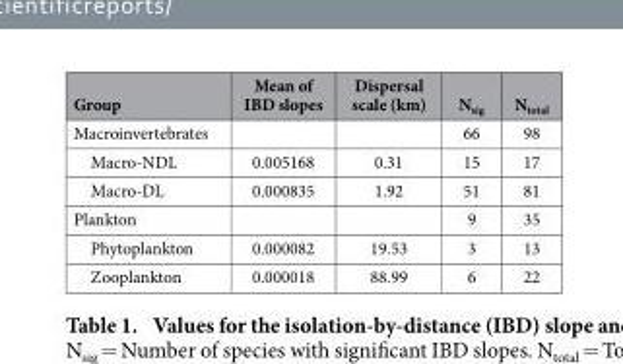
<table><thead><tr><td>Group</td><td>Mean of IBD slopes</td><td>Dispersal scale (km)</td><td>N<sub>sig</sub></td><td>N<sub>total</sub></td></tr></thead><tbody><tr><td>Macroinvertebrates</td><td></td><td></td><td>66</td><td>98</td></tr><tr><td>Macro-NDL</td><td>0.005168</td><td>0.31</td><td>15</td><td>17</td></tr><tr><td>Macro-DL</td><td>0.000835</td><td>1.92</td><td>51</td><td>81</td></tr><tr><td>Plankton</td><td></td><td></td><td>9</td><td>35</td></tr><tr><td>Phytoplankton</td><td>0.000082</td><td>19.53</td><td>3</td><td>13</td></tr><tr><td>Zooplankton</td><td>0.000018</td><td>88.99</td><td>6</td><td>22</td></tr></tbody></table>